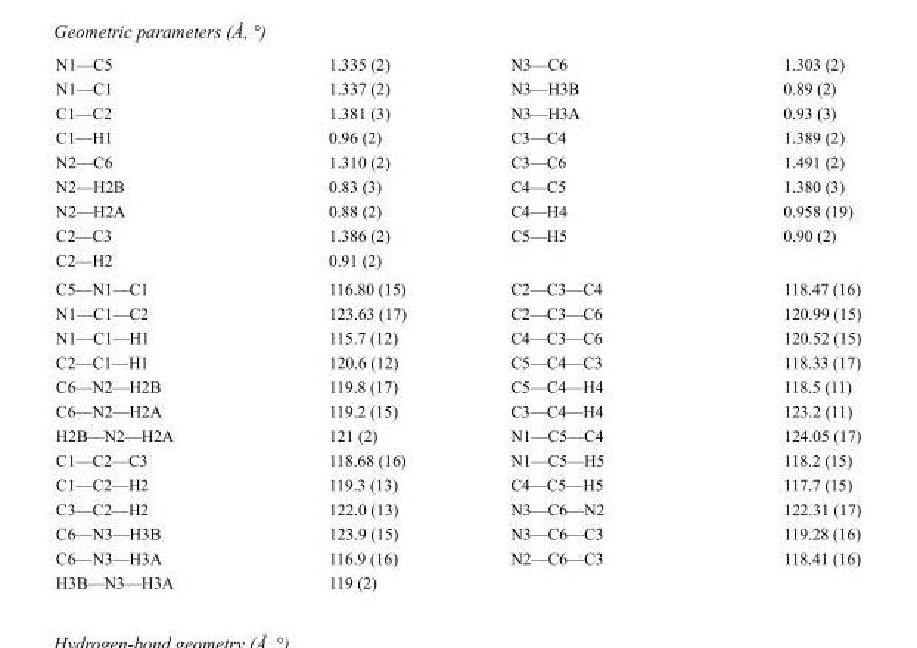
<table><tbody><tr><td>N1—C5</td><td>1.335 (2)</td><td>N3—C6</td><td>1.303 (2)</td></tr><tr><td>N1—C1</td><td>1.337 (2)</td><td>N3—H3B</td><td>0.89 (2)</td></tr><tr><td>C1—C2</td><td>1.381 (3)</td><td>N3—H3A</td><td>0.93 (3)</td></tr><tr><td>C1—H1</td><td>0.96 (2)</td><td>C3—C4</td><td>1.389 (2)</td></tr><tr><td>N2—C6</td><td>1.310 (2)</td><td>C3—C6</td><td>1.491 (2)</td></tr><tr><td>N2—H2B</td><td>0.83 (3)</td><td>C4—C5</td><td>1.380 (3)</td></tr><tr><td>N2—H2A</td><td>0.88 (2)</td><td>C4—H4</td><td>0.958 (19)</td></tr><tr><td>C2—C3</td><td>1.386 (2)</td><td>C5—H5</td><td>0.90 (2)</td></tr><tr><td>C2—H2</td><td>0.91 (2)</td><td></td><td></td></tr><tr><td>C5—N1—C1</td><td>116.80 (15)</td><td>C2—C3—C4</td><td>118.47 (16)</td></tr><tr><td>N1—C1—C2</td><td>123.63 (17)</td><td>C2—C3—C6</td><td>120.99 (15)</td></tr><tr><td>N1—C1—H1</td><td>115.7 (12)</td><td>C4—C3—C6</td><td>120.52 (15)</td></tr><tr><td>C2—C1—H1</td><td>120.6 (12)</td><td>C5—C4—C3</td><td>118.33 (17)</td></tr><tr><td>C6—N2—H2B</td><td>119.8 (17)</td><td>C5—C4—H4</td><td>118.5 (11)</td></tr><tr><td>C6—N2—H2A</td><td>119.2 (15)</td><td>C3—C4—H4</td><td>123.2 (11)</td></tr><tr><td>H2B—N2—H2A</td><td>121 (2)</td><td>N1—C5—C4</td><td>124.05 (17)</td></tr><tr><td>C1—C2—C3</td><td>118.68 (16)</td><td>N1—C5—H5</td><td>118.2 (15)</td></tr><tr><td>C1—C2—H2</td><td>119.3 (13)</td><td>C4—C5—H5</td><td>117.7 (15)</td></tr><tr><td>C3—C2—H2</td><td>122.0 (13)</td><td>N3—C6—N2</td><td>122.31 (17)</td></tr><tr><td>C6—N3—H3B</td><td>123.9 (15)</td><td>N3—C6—C3</td><td>119.28 (16)</td></tr><tr><td>C6—N3—H3A</td><td>116.9 (16)</td><td>N2—C6—C3</td><td>118.41 (16)</td></tr><tr><td>H3B—N3—H3A</td><td>119 (2)</td><td></td><td></td></tr></tbody></table>